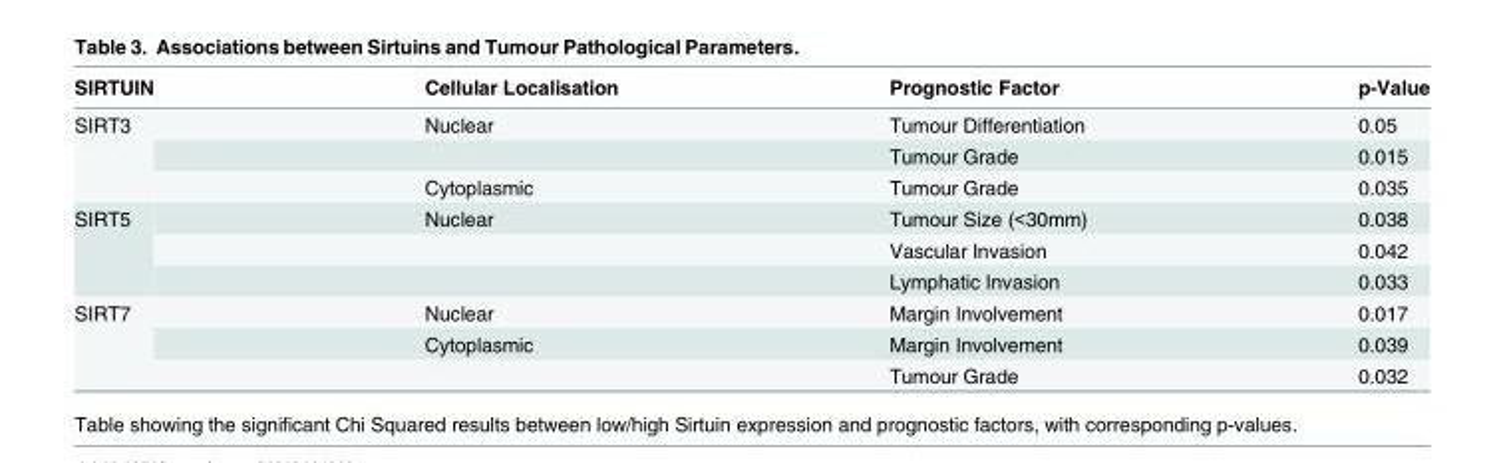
<table><thead><tr><td>SIRTUIN</td><td>Cellular Localisation</td><td>Prognostic Factor</td><td>p-Value</td></tr></thead><tbody><tr><td rowspan="3">SIRT3</td><td>Nuclear</td><td>Tumour Differentiation</td><td>0.05</td></tr><tr><td></td><td>Tumour Grade</td><td>0.015</td></tr><tr><td>Cytoplasmic</td><td>Tumour Grade</td><td>0.035</td></tr><tr><td rowspan="3">SIRT5</td><td>Nuclear</td><td>Tumour Size (&lt;30mm)</td><td>0.038</td></tr><tr><td></td><td>Vascular Invasion</td><td>0.042</td></tr><tr><td></td><td>Lymphatic Invasion</td><td>0.033</td></tr><tr><td rowspan="3">SIRT7</td><td>Nuclear</td><td>Margin Involvement</td><td>0.017</td></tr><tr><td>Cytoplasmic</td><td>Margin Involvement</td><td>0.039</td></tr><tr><td></td><td>Tumour Grade</td><td>0.032</td></tr></tbody></table>